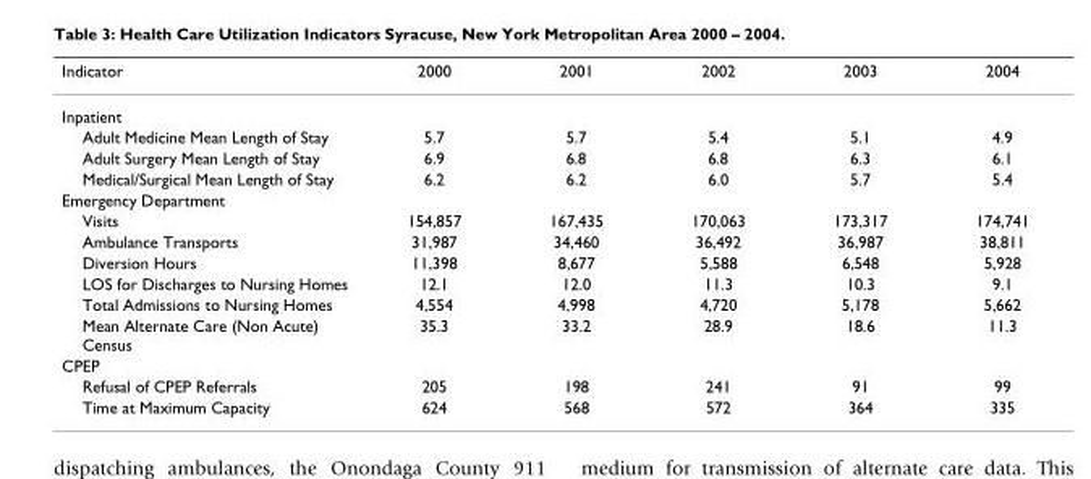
<table><thead><tr><td>Indicator</td><td>2000</td><td>2001</td><td>2002</td><td>2003</td><td>2004</td></tr></thead><tbody><tr><td colspan="6">Inpatient</td></tr><tr><td>Adult Medicine Mean Length of Stay</td><td>5.7</td><td>5.7</td><td>5.4</td><td>5.1</td><td>4.9</td></tr><tr><td>Adult Surgery Mean Length of Stay</td><td>6.9</td><td>6.8</td><td>6.8</td><td>6.3</td><td>6.1</td></tr><tr><td>Medical/Surgical Mean Length of Stay</td><td>6.2</td><td>6.2</td><td>6.0</td><td>5.7</td><td>5.4</td></tr><tr><td colspan="6">Emergency Department</td></tr><tr><td>Visits</td><td>154,857</td><td>167,435</td><td>170,063</td><td>173,317</td><td>174,741</td></tr><tr><td>Ambulance Transports</td><td>31,987</td><td>34,460</td><td>36,492</td><td>36,987</td><td>38,811</td></tr><tr><td>Diversion Hours</td><td>11,398</td><td>8,677</td><td>5,588</td><td>6,548</td><td>5,928</td></tr><tr><td>LOS for Discharges to Nursing Homes</td><td>12.1</td><td>12.0</td><td>11.3</td><td>10.3</td><td>9.1</td></tr><tr><td>Total Admissions to Nursing Homes</td><td>4,554</td><td>4,998</td><td>4,720</td><td>5,178</td><td>5,662</td></tr><tr><td>Mean Alternate Care (Non Acute) Census</td><td>35.3</td><td>33.2</td><td>28.9</td><td>18.6</td><td>11.3</td></tr><tr><td colspan="6">CPEP</td></tr><tr><td>Refusal of CPEP Referrals</td><td>205</td><td>198</td><td>241</td><td>91</td><td>99</td></tr><tr><td>Time at Maximum Capacity</td><td>624</td><td>568</td><td>572</td><td>364</td><td>335</td></tr></tbody></table>